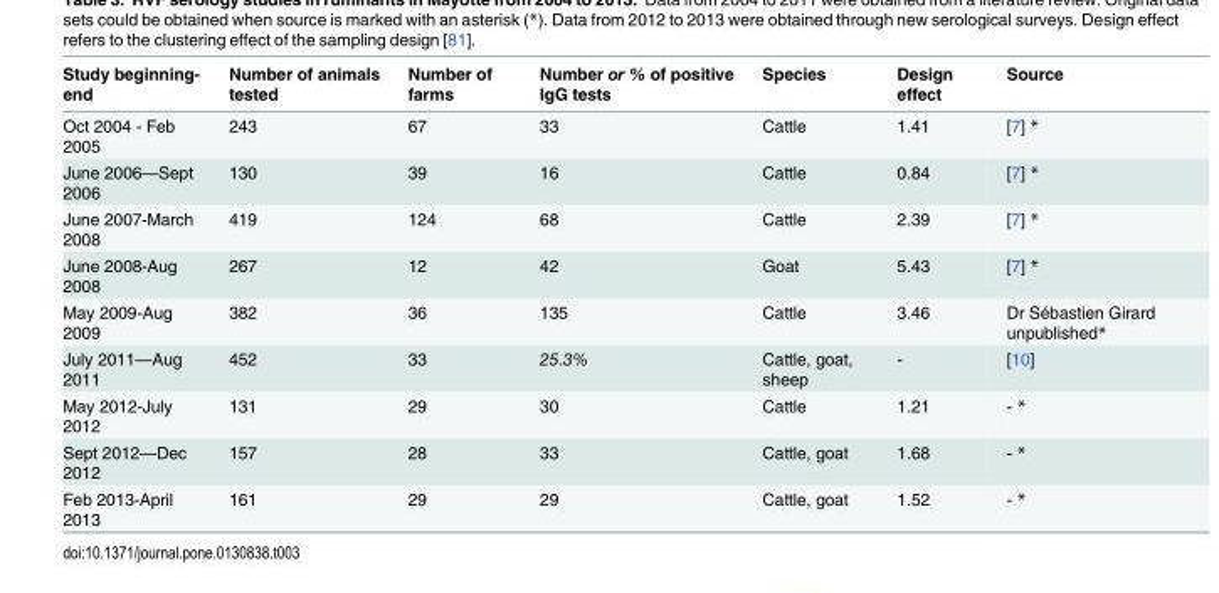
<table><thead><tr><td>Study beginning- end</td><td>Number of animals tested</td><td>Number of farms</td><td>Number or % of positive IgG tests</td><td>Species</td><td>Design effect</td><td>Source</td></tr></thead><tbody><tr><td>Oct 2004 - Feb 2005</td><td>243</td><td>67</td><td>33</td><td>Cattle</td><td>1.41</td><td>[7] *</td></tr><tr><td>June 2006—Sept 2006</td><td>130</td><td>39</td><td>16</td><td>Cattle</td><td>0.84</td><td>[7] *</td></tr><tr><td>June 2007-March 2008</td><td>419</td><td>124</td><td>68</td><td>Cattle</td><td>2.39</td><td>[7] *</td></tr><tr><td>June 2008-Aug 2008</td><td>267</td><td>12</td><td>42</td><td>Goat</td><td>5.43</td><td>[7] *</td></tr><tr><td>May 2009-Aug 2009</td><td>382</td><td>36</td><td>135</td><td>Cattle</td><td>3.46</td><td>Dr Sébastien Girard unpublished*</td></tr><tr><td>July 2011—Aug 2011</td><td>452</td><td>33</td><td>25.3%</td><td>Cattle, goat, sheep</td><td>-</td><td>[10]</td></tr><tr><td>May 2012-July 2012</td><td>131</td><td>29</td><td>30</td><td>Cattle</td><td>1.21</td><td>- *</td></tr><tr><td>Sept 2012—Dec 2012</td><td>157</td><td>28</td><td>33</td><td>Cattle, goat</td><td>1.68</td><td>- *</td></tr><tr><td>Feb 2013-April 2013</td><td>161</td><td>29</td><td>29</td><td>Cattle, goat</td><td>1.52</td><td>- *</td></tr></tbody></table>